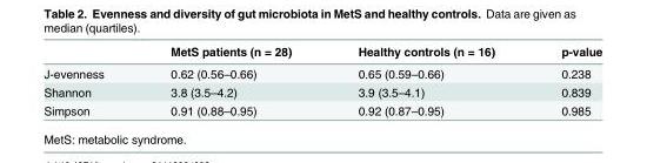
<table><thead><tr><td></td><td>MetS patients (n = 28)</td><td>Healthy controls (n = 16)</td><td>p-value</td></tr></thead><tbody><tr><td>J-evenness</td><td>0.62 (0.56–0.66)</td><td>0.65 (0.59–0.66)</td><td>0.238</td></tr><tr><td>Shannon</td><td>3.8 (3.5–4.2)</td><td>3.9 (3.5–4.1)</td><td>0.839</td></tr><tr><td>Simpson</td><td>0.91 (0.88–0.95)</td><td>0.92 (0.87–0.95)</td><td>0.985</td></tr></tbody></table>